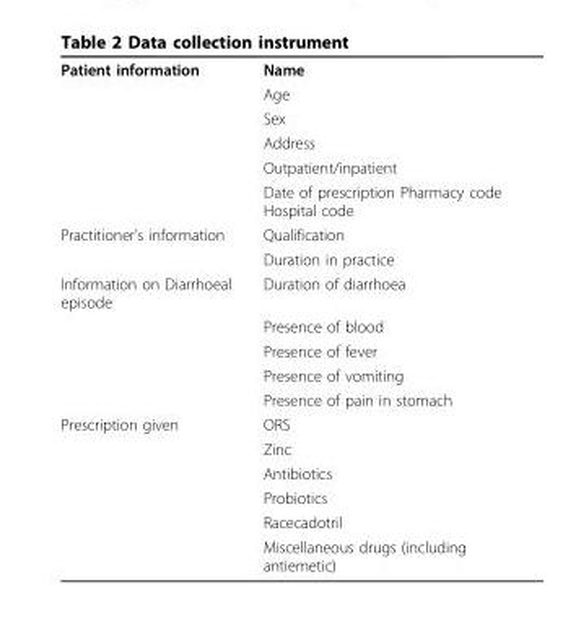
<table><tbody><tr><td rowspan="6">Patient information</td><td>Name</td></tr><tr><td>Age</td></tr><tr><td>Sex</td></tr><tr><td>Address</td></tr><tr><td>Outpatient/inpatient</td></tr><tr><td>Date of prescription Pharmacy code Hospital code</td></tr><tr><td rowspan="2">Practitioner’s information</td><td>Qualification</td></tr><tr><td>Duration in practice</td></tr><tr><td rowspan="5">Information on Diarrhoeal episode</td><td>Duration of diarrhoea</td></tr><tr><td>Presence of blood</td></tr><tr><td>Presence of fever</td></tr><tr><td>Presence of vomiting</td></tr><tr><td>Presence of pain in stomach</td></tr><tr><td rowspan="6">Prescription given</td><td>ORS</td></tr><tr><td>Zinc</td></tr><tr><td>Antibiotics</td></tr><tr><td>Probiotics</td></tr><tr><td>Racecadotril</td></tr><tr><td>Miscellaneous drugs (including antiemetic)</td></tr></tbody></table>